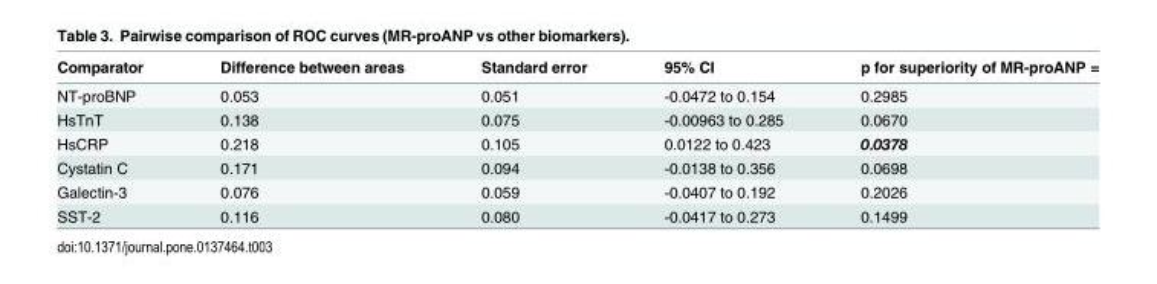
<table><thead><tr><td>Comparator</td><td>Difference between areas</td><td>Standard error</td><td>95% CI</td><td>p for superiority of MR-proANP =</td></tr></thead><tbody><tr><td>NT-proBNP</td><td>0.053</td><td>0.051</td><td>-0.0472 to 0.154</td><td>0.2985</td></tr><tr><td>HsTnT</td><td>0.138</td><td>0.075</td><td>-0.00963 to 0.285</td><td>0.0670</td></tr><tr><td>HsCRP</td><td>0.218</td><td>0.105</td><td>0.0122 to 0.423</td><td>0.0378</td></tr><tr><td>Cystatin C</td><td>0.171</td><td>0.094</td><td>-0.0138 to 0.356</td><td>0.0698</td></tr><tr><td>Galectin-3</td><td>0.076</td><td>0.059</td><td>-0.0407 to 0.192</td><td>0.2026</td></tr><tr><td>SST-2</td><td>0.116</td><td>0.080</td><td>-0.0417 to 0.273</td><td>0.1499</td></tr></tbody></table>